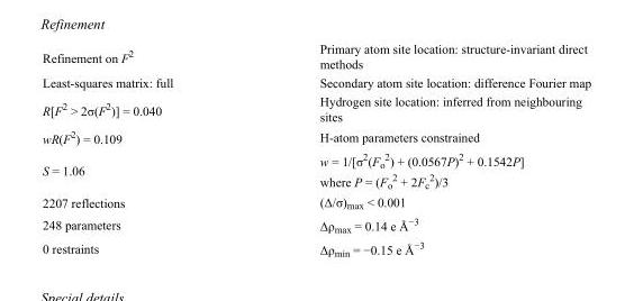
<table><tbody><tr><td>Refinement on F<sup>2</sup></td><td>Primary atom site location: structure-invariant direct methods</td></tr><tr><td>Least-squares matrix: full</td><td>Secondary atom site location: difference Fourier map</td></tr><tr><td>R[F<sup>2</sup> &gt; 2σ(F<sup>2</sup>)] = 0.040</td><td>Hydrogen site location: inferred from neighbouring sites</td></tr><tr><td>wR(F<sup>2</sup>) = 0.109</td><td>H-atom parameters constrained</td></tr><tr><td>S = 1.06</td><td>w = 1/[σ<sup>2</sup>(F<sub>o</sub> <sup>2</sup>) + (0.0567P)<sup>2</sup> + 0.1542P] where P = (F<sub>o</sub> <sup>2</sup> + 2F<sub>c</sub> <sup>2</sup>)/3</td></tr><tr><td>2207 reflections</td><td>(Δ/σ)<sub>max</sub> &lt; 0.001</td></tr><tr><td>248 parameters</td><td>Δρ<sub>max</sub> = 0.14 e Å<sup>−3</sup></td></tr><tr><td>0 restraints</td><td>Δρ<sub>min</sub> = −0.15 e Å<sup>−3</sup></td></tr></tbody></table>